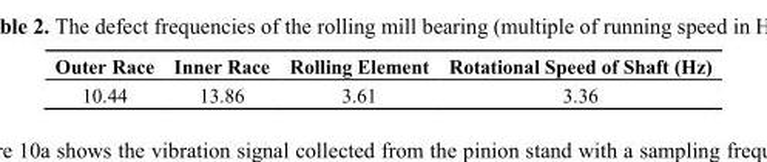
<table><thead><tr><td>Outer Race</td><td>Inner Race</td><td>Rolling Element</td><td>Rotational Speed of Shaft (Hz)</td></tr></thead><tbody><tr><td>10.44</td><td>13.86</td><td>3.61</td><td>3.36</td></tr></tbody></table>